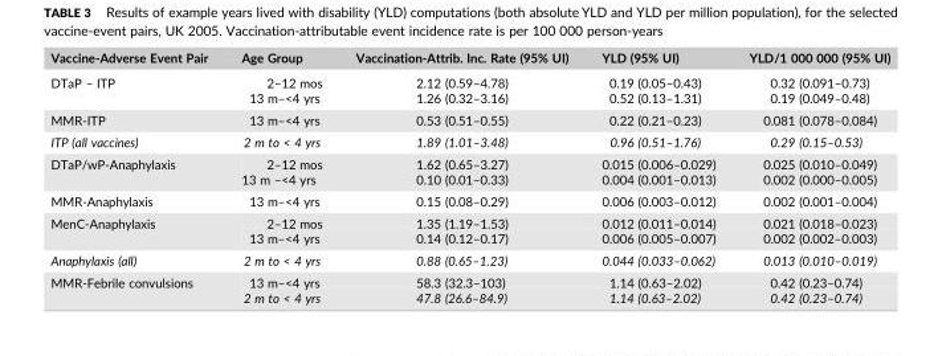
<table><thead><tr><td>Vaccine‐Adverse Event Pair</td><td>Age Group</td><td>Vaccination‐Attrib. Inc. Rate (95% UI)</td><td>YLD (95% UI)</td><td>YLD/1 000 000 (95% UI)</td></tr></thead><tbody><tr><td rowspan="2">DTaP – ITP</td><td>2–12 mos</td><td>2.12 (0.59–4.78)</td><td>0.19 (0.05–0.43)</td><td>0.32 (0.091–0.73)</td></tr><tr><td>13 m–&lt;4 yrs</td><td>1.26 (0.32–3.16)</td><td>0.52 (0.13–1.31)</td><td>0.19 (0.049–0.48)</td></tr><tr><td>MMR‐ITP</td><td>13 m–&lt;4 yrs</td><td>0.53 (0.51–0.55)</td><td>0.22 (0.21–0.23)</td><td>0.081 (0.078–0.084)</td></tr><tr><td>ITP (all vaccines)</td><td>2 m to &lt; 4 yrs</td><td>1.89 (1.01–3.48)</td><td>0.96 (0.51–1.76)</td><td>0.29 (0.15–0.53)</td></tr><tr><td rowspan="2">DTaP/wP‐Anaphylaxis</td><td>2–12 mos</td><td>1.62 (0.65–3.27)</td><td>0.015 (0.006–0.029)</td><td>0.025 (0.010–0.049)</td></tr><tr><td>13 m –&lt;4 yrs</td><td>0.10 (0.01–0.33)</td><td>0.004 (0.001–0.013)</td><td>0.002 (0.000–0.005)</td></tr><tr><td>MMR‐Anaphylaxis</td><td>13 m–&lt;4 yrs</td><td>0.15 (0.08–0.29)</td><td>0.006 (0.003–0.012)</td><td>0.002 (0.001–0.004)</td></tr><tr><td rowspan="2">MenC‐Anaphylaxis</td><td>2–12 mos</td><td>1.35 (1.19–1.53)</td><td>0.012 (0.011–0.014)</td><td>0.021 (0.018–0.023)</td></tr><tr><td>13 m–&lt;4 yrs</td><td>0.14 (0.12–0.17)</td><td>0.006 (0.005–0.007)</td><td>0.002 (0.002–0.003)</td></tr><tr><td>Anaphylaxis (all)</td><td>2 m to &lt; 4 yrs</td><td>0.88 (0.65–1.23)</td><td>0.044 (0.033–0.062)</td><td>0.013 (0.010–0.019)</td></tr><tr><td rowspan="2">MMR‐Febrile convulsions</td><td>13 m–&lt;4 yrs</td><td>58.3 (32.3–103)</td><td>1.14 (0.63–2.02)</td><td>0.42 (0.23–0.74)</td></tr><tr><td>2 m to &lt; 4 yrs</td><td>47.8 (26.6–84.9)</td><td>1.14 (0.63–2.02)</td><td>0.42 (0.23–0.74)</td></tr></tbody></table>